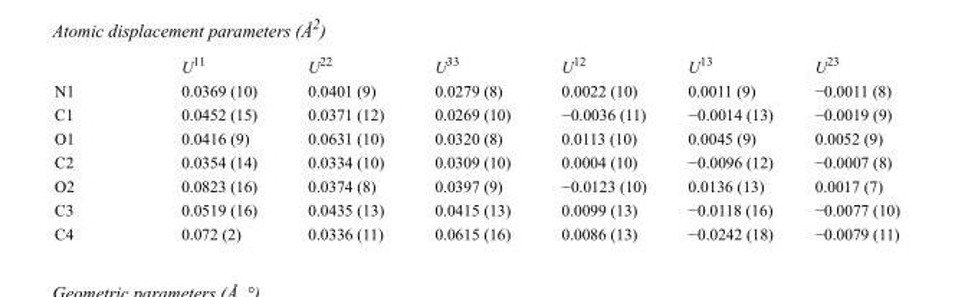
<table><thead><tr><td></td><td>U<sup>11</sup></td><td>U<sup>22</sup></td><td>U<sup>33</sup></td><td>U<sup>12</sup></td><td>U<sup>13</sup></td><td>U<sup>23</sup></td></tr></thead><tbody><tr><td>N1</td><td>0.0369 (10)</td><td>0.0401 (9)</td><td>0.0279 (8)</td><td>0.0022 (10)</td><td>0.0011 (9)</td><td>−0.0011 (8)</td></tr><tr><td>C1</td><td>0.0452 (15)</td><td>0.0371 (12)</td><td>0.0269 (10)</td><td>−0.0036 (11)</td><td>−0.0014 (13)</td><td>−0.0019 (9)</td></tr><tr><td>O1</td><td>0.0416 (9)</td><td>0.0631 (10)</td><td>0.0320 (8)</td><td>0.0113 (10)</td><td>0.0045 (9)</td><td>0.0052 (9)</td></tr><tr><td>C2</td><td>0.0354 (14)</td><td>0.0334 (10)</td><td>0.0309 (10)</td><td>0.0004 (10)</td><td>−0.0096 (12)</td><td>−0.0007 (8)</td></tr><tr><td>O2</td><td>0.0823 (16)</td><td>0.0374 (8)</td><td>0.0397 (9)</td><td>−0.0123 (10)</td><td>0.0136 (13)</td><td>0.0017 (7)</td></tr><tr><td>C3</td><td>0.0519 (16)</td><td>0.0435 (13)</td><td>0.0415 (13)</td><td>0.0099 (13)</td><td>−0.0118 (16)</td><td>−0.0077 (10)</td></tr><tr><td>C4</td><td>0.072 (2)</td><td>0.0336 (11)</td><td>0.0615 (16)</td><td>0.0086 (13)</td><td>−0.0242 (18)</td><td>−0.0079 (11)</td></tr></tbody></table>